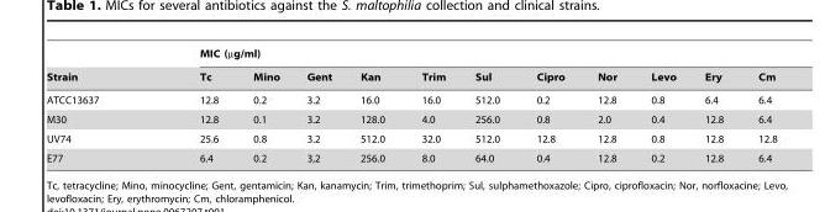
<table><thead><tr><td rowspan="2">Strain</td><td colspan="11">MIC (µg/ml)</td></tr><tr><td>Tc</td><td>Mino</td><td>Gent</td><td>Kan</td><td>Trim</td><td>Sul</td><td>Cipro</td><td>Nor</td><td>Levo</td><td>Ery</td><td>Cm</td></tr></thead><tbody><tr><td>ATCC13637</td><td>12.8</td><td>0.2</td><td>3.2</td><td>16.0</td><td>16.0</td><td>512.0</td><td>0.2</td><td>12.8</td><td>0.8</td><td>6.4</td><td>6.4</td></tr><tr><td>M30</td><td>12.8</td><td>0.1</td><td>3.2</td><td>128.0</td><td>4.0</td><td>256.0</td><td>0.8</td><td>2.0</td><td>0.4</td><td>12.8</td><td>6.4</td></tr><tr><td>UV74</td><td>25.6</td><td>0.8</td><td>3.2</td><td>512.0</td><td>32.0</td><td>512.0</td><td>12.8</td><td>12.8</td><td>0.8</td><td>12.8</td><td>12.8</td></tr><tr><td>E77</td><td>6.4</td><td>0.2</td><td>3,2</td><td>256.0</td><td>8.0</td><td>64.0</td><td>0.4</td><td>12.8</td><td>0.2</td><td>12.8</td><td>6.4</td></tr></tbody></table>